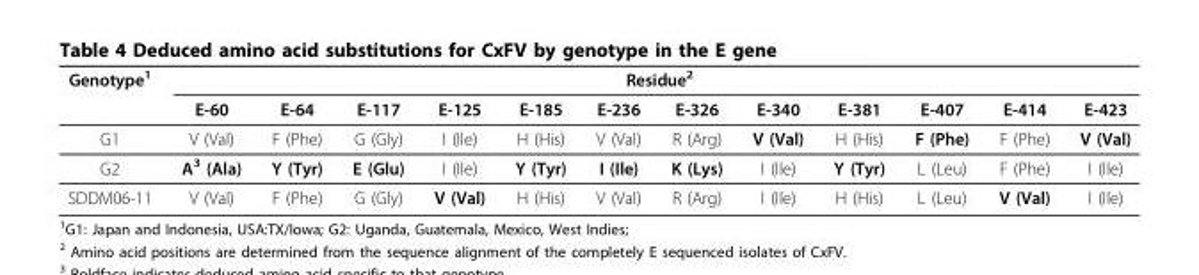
<table><thead><tr><td rowspan="2">Genotype<sup>1</sup></td><td rowspan="2">E-60</td><td rowspan="2">E-64</td><td rowspan="2">E-117</td><td rowspan="2">E-125</td><td rowspan="2">E-185</td><td colspan="2">Residue<sup>2</sup></td><td rowspan="2">E-340</td><td rowspan="2">E-381</td><td rowspan="2">E-407</td><td rowspan="2">E-414</td><td rowspan="2">E-423</td></tr><tr><td>E-236</td><td>E-326</td></tr></thead><tbody><tr><td>G1</td><td>V (Val)</td><td>F (Phe)</td><td>G (Gly)</td><td>I (Ile)</td><td>H (His)</td><td>V (Val)</td><td>R (Arg)</td><td>V (Val)</td><td>H (His)</td><td>F (Phe)</td><td>F (Phe)</td><td>V (Val)</td></tr><tr><td>G2</td><td>A<sup>3</sup> (Ala)</td><td>Y (Tyr)</td><td>E (Glu)</td><td>I (Ile)</td><td>Y (Tyr)</td><td>I (Ile)</td><td>K (Lys)</td><td>I (Ile)</td><td>Y (Tyr)</td><td>L (Leu)</td><td>F (Phe)</td><td>I (Ile)</td></tr><tr><td>SDDM06-11</td><td>V (Val)</td><td>F (Phe)</td><td>G (Gly)</td><td>V (Val)</td><td>H (His)</td><td>V (Val)</td><td>R (Arg)</td><td>I (Ile)</td><td>H (His)</td><td>L (Leu)</td><td>V (Val)</td><td>I (Ile)</td></tr></tbody></table>